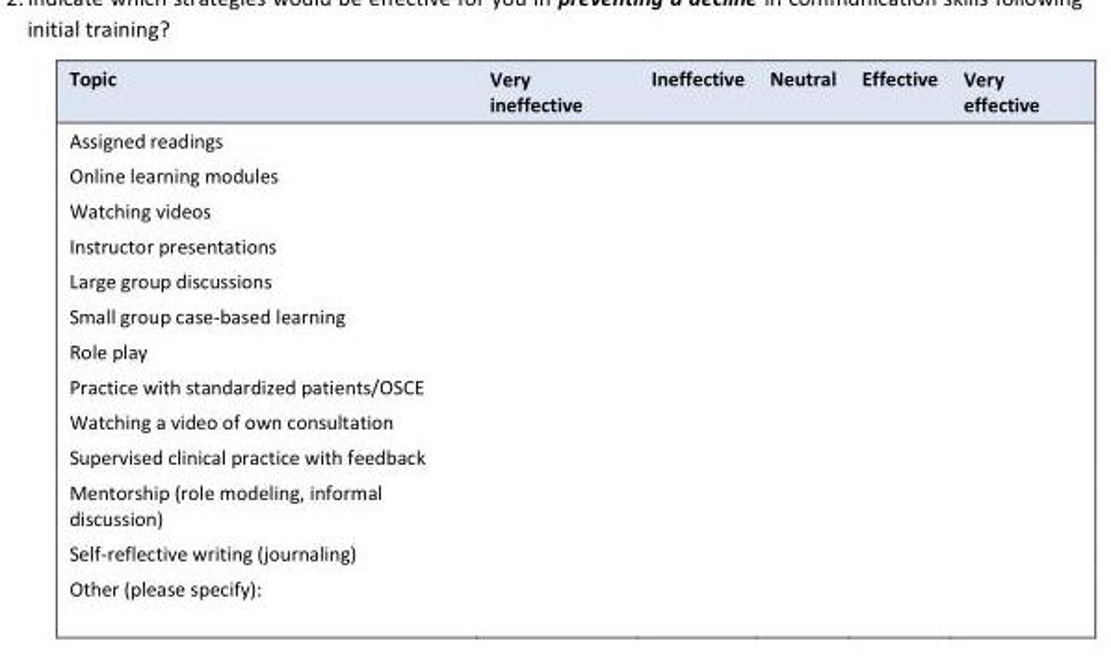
<table><thead><tr><td>Topic</td><td>Very ineffective</td><td>Ineffective</td><td>Neutral</td><td>Effective</td><td>Very effective</td></tr></thead><tbody><tr><td colspan="6">Assigned readings</td></tr><tr><td colspan="6">Online learning modules</td></tr><tr><td colspan="6">Watching videos</td></tr><tr><td colspan="6">Instructor presentations</td></tr><tr><td colspan="6">Large group discussions</td></tr><tr><td colspan="6">Small group case-based learning</td></tr><tr><td colspan="6">Role play</td></tr><tr><td colspan="6">Practice with standardized patients/OSCE</td></tr><tr><td colspan="6">Watching a video of own consultation</td></tr><tr><td colspan="6">Supervised clinical practice with feedback</td></tr><tr><td colspan="6">Mentorship (role modeling, informal discussion)</td></tr><tr><td colspan="6">Self-reflective writing (journaling)</td></tr><tr><td>Other (please specify):</td><td></td><td></td><td></td><td></td><td></td></tr></tbody></table>